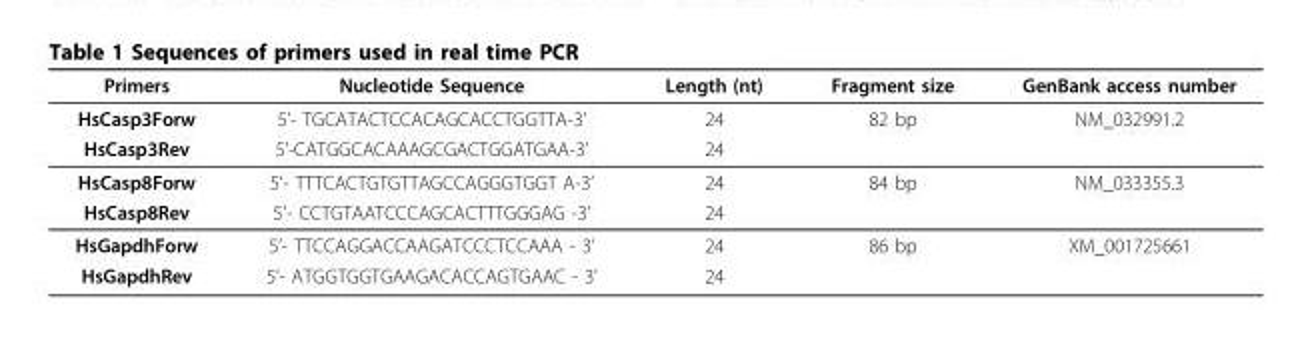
<table><thead><tr><td>Primers</td><td>Nucleotide Sequence</td><td>Length (nt)</td><td>Fragment size</td><td>GenBank access number</td></tr></thead><tbody><tr><td>HsCasp3Forw</td><td>5’- TGCATACTCCACAGCACCTGGTTA-3’</td><td>24</td><td>82 bp</td><td>NM_032991.2</td></tr><tr><td>HsCasp3Rev</td><td>5’-CATGGCACAAAGCGACTGGATGAA-3’</td><td>24</td><td></td><td></td></tr><tr><td>HsCasp8Forw</td><td>5’- TTTCACTGTGTTAGCCAGGGTGGT A-3’</td><td>24</td><td>84 bp</td><td>NM_033355.3</td></tr><tr><td>HsCasp8Rev</td><td>5’- CCTGTAATCCCAGCACTTTGGGAG -3’</td><td>24</td><td></td><td></td></tr><tr><td>HsGapdhForw</td><td>5’- TTCCAGGACCAAGATCCCTCCAAA - 3’</td><td>24</td><td>86 bp</td><td>XM_001725661</td></tr><tr><td>HsGapdhRev</td><td>5’- ATGGTGGTGAAGACACCAGTGAAC - 3’</td><td>24</td><td></td><td></td></tr></tbody></table>